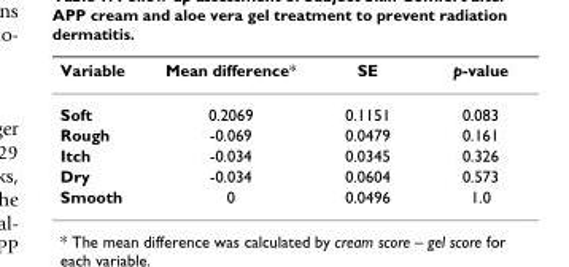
<table><thead><tr><td>Variable</td><td>Mean difference*</td><td>SE</td><td>p-value</td></tr></thead><tbody><tr><td>Soft</td><td>0.2069</td><td>0.1151</td><td>0.083</td></tr><tr><td>Rough</td><td>-0.069</td><td>0.0479</td><td>0.161</td></tr><tr><td>Itch</td><td>-0.034</td><td>0.0345</td><td>0.326</td></tr><tr><td>Dry</td><td>-0.034</td><td>0.0604</td><td>0.573</td></tr><tr><td>Smooth</td><td>0</td><td>0.0496</td><td>1.0</td></tr></tbody></table>